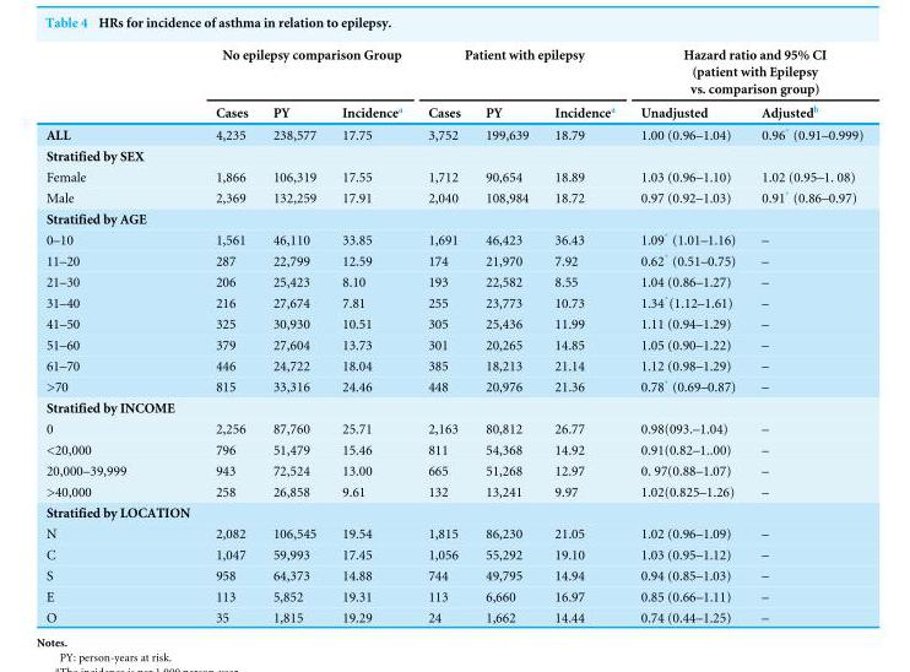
<table><thead><tr><td rowspan="2"></td><td colspan="3">No epilepsy comparison Group</td><td colspan="3">Patient with epilepsy</td><td colspan="2">Hazard ratio and 95% CI (patient with Epilepsy vs. comparison group)</td></tr><tr><td>Cases</td><td>PY</td><td>Incidence<sup>a</sup></td><td>Cases</td><td>PY</td><td>Incidence<sup>a</sup></td><td>Unadjusted</td><td>Adjusted<sup>b</sup></td></tr></thead><tbody><tr><td>ALL</td><td>4,235</td><td>238,577</td><td>17.75</td><td>3,752</td><td>199,639</td><td>18.79</td><td>1.00 (0.96–1.04)</td><td>0.96* (0.91–0.999)</td></tr><tr><td colspan="9">Stratified by SEX</td></tr><tr><td>Female</td><td>1,866</td><td>106,319</td><td>17.55</td><td>1,712</td><td>90,654</td><td>18.89</td><td>1.03 (0.96–1.10)</td><td>1.02 (0.95–1. 08)</td></tr><tr><td>Male</td><td>2,369</td><td>132,259</td><td>17.91</td><td>2,040</td><td>108,984</td><td>18.72</td><td>0.97 (0.92–1.03)</td><td>0.91* (0.86–0.97)</td></tr><tr><td colspan="9">Stratified by AGE</td></tr><tr><td>0–10</td><td>1,561</td><td>46,110</td><td>33.85</td><td>1,691</td><td>46,423</td><td>36.43</td><td>1.09* (1.01–1.16)</td><td>–</td></tr><tr><td>11–20</td><td>287</td><td>22,799</td><td>12.59</td><td>174</td><td>21,970</td><td>7.92</td><td>0.62* (0.51–0.75)</td><td>–</td></tr><tr><td>21–30</td><td>206</td><td>25,423</td><td>8.10</td><td>193</td><td>22,582</td><td>8.55</td><td>1.04 (0.86–1.27)</td><td>–</td></tr><tr><td>31–40</td><td>216</td><td>27,674</td><td>7.81</td><td>255</td><td>23,773</td><td>10.73</td><td>1.34*(1.12–1.61)</td><td>–</td></tr><tr><td>41–50</td><td>325</td><td>30,930</td><td>10.51</td><td>305</td><td>25,436</td><td>11.99</td><td>1.11 (0.94–1.29)</td><td>–</td></tr><tr><td>51–60</td><td>379</td><td>27,604</td><td>13.73</td><td>301</td><td>20,265</td><td>14.85</td><td>1.05 (0.90–1.22)</td><td>–</td></tr><tr><td>61–70</td><td>446</td><td>24,722</td><td>18.04</td><td>385</td><td>18,213</td><td>21.14</td><td>1.12 (0.98–1.29)</td><td>–</td></tr><tr><td>&gt;70</td><td>815</td><td>33,316</td><td>24.46</td><td>448</td><td>20,976</td><td>21.36</td><td>0.78* (0.69–0.87)</td><td>–</td></tr><tr><td colspan="9">Stratified by INCOME</td></tr><tr><td>0</td><td>2,256</td><td>87,760</td><td>25.71</td><td>2,163</td><td>80,812</td><td>26.77</td><td>0.98(093.–1.04)</td><td>–</td></tr><tr><td>&lt;20,000</td><td>796</td><td>51,479</td><td>15.46</td><td>811</td><td>54,368</td><td>14.92</td><td>0.91(0.82–1..00)</td><td>–</td></tr><tr><td>20,000–39,999</td><td>943</td><td>72,524</td><td>13.00</td><td>665</td><td>51,268</td><td>12.97</td><td>0. 97(0.88–1.07)</td><td>–</td></tr><tr><td>&gt;40,000</td><td>258</td><td>26,858</td><td>9.61</td><td>132</td><td>13,241</td><td>9.97</td><td>1.02(0.825–1.26)</td><td>–</td></tr><tr><td colspan="9">Stratified by LOCATION</td></tr><tr><td>N</td><td>2,082</td><td>106,545</td><td>19.54</td><td>1,815</td><td>86,230</td><td>21.05</td><td>1.02 (0.96–1.09)</td><td>–</td></tr><tr><td>C</td><td>1,047</td><td>59,993</td><td>17.45</td><td>1,056</td><td>55,292</td><td>19.10</td><td>1.03 (0.95–1.12)</td><td>–</td></tr><tr><td>S</td><td>958</td><td>64,373</td><td>14.88</td><td>744</td><td>49,795</td><td>14.94</td><td>0.94 (0.85–1.03)</td><td>–</td></tr><tr><td>E</td><td>113</td><td>5,852</td><td>19.31</td><td>113</td><td>6,660</td><td>16.97</td><td>0.85 (0.66–1.11)</td><td>–</td></tr><tr><td>O</td><td>35</td><td>1,815</td><td>19.29</td><td>24</td><td>1,662</td><td>14.44</td><td>0.74 (0.44–1.25)</td><td>–</td></tr></tbody></table>